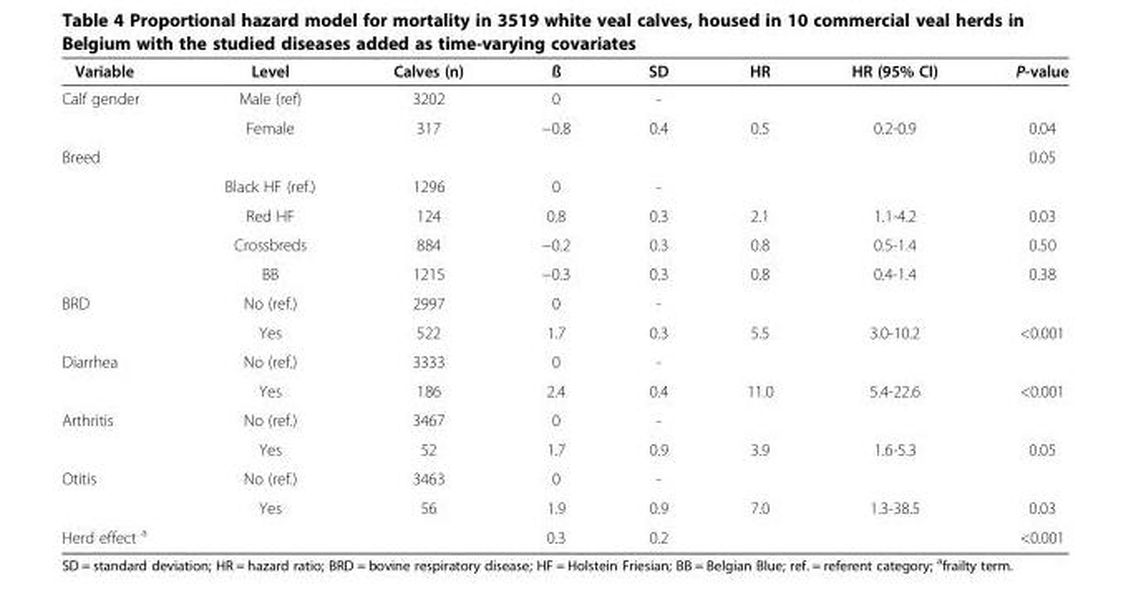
<table><thead><tr><td>Variable</td><td>Level</td><td>Calves (n)</td><td>ß</td><td>SD</td><td>HR</td><td>HR (95% CI)</td><td>P-value</td></tr></thead><tbody><tr><td rowspan="2">Calf gender</td><td>Male (ref)</td><td>3202</td><td>0</td><td>-</td><td></td><td></td><td></td></tr><tr><td>Female</td><td>317</td><td>−0.8</td><td>0.4</td><td>0.5</td><td>0.2-0.9</td><td>0.04</td></tr><tr><td rowspan="5">Breed</td><td></td><td></td><td></td><td></td><td></td><td></td><td>0.05</td></tr><tr><td>Black HF (ref.)</td><td>1296</td><td>0</td><td>-</td><td></td><td></td><td></td></tr><tr><td>Red HF</td><td>124</td><td>0.8</td><td>0.3</td><td>2.1</td><td>1.1-4.2</td><td>0.03</td></tr><tr><td>Crossbreds</td><td>884</td><td>−0.2</td><td>0.3</td><td>0.8</td><td>0.5-1.4</td><td>0.50</td></tr><tr><td>BB</td><td>1215</td><td>−0.3</td><td>0.3</td><td>0.8</td><td>0.4-1.4</td><td>0.38</td></tr><tr><td rowspan="2">BRD</td><td>No (ref.)</td><td>2997</td><td>0</td><td>-</td><td></td><td></td><td></td></tr><tr><td>Yes</td><td>522</td><td>1.7</td><td>0.3</td><td>5.5</td><td>3.0-10.2</td><td>&lt;0.001</td></tr><tr><td rowspan="2">Diarrhea</td><td>No (ref.)</td><td>3333</td><td>0</td><td>-</td><td></td><td></td><td></td></tr><tr><td>Yes</td><td>186</td><td>2.4</td><td>0.4</td><td>11.0</td><td>5.4-22.6</td><td>&lt;0.001</td></tr><tr><td rowspan="2">Arthritis</td><td>No (ref.)</td><td>3467</td><td>0</td><td>-</td><td></td><td></td><td></td></tr><tr><td>Yes</td><td>52</td><td>1.7</td><td>0.9</td><td>3.9</td><td>1.6-5.3</td><td>0.05</td></tr><tr><td rowspan="2">Otitis</td><td>No (ref.)</td><td>3463</td><td>0</td><td>-</td><td></td><td></td><td></td></tr><tr><td>Yes</td><td>56</td><td>1.9</td><td>0.9</td><td>7.0</td><td>1.3-38.5</td><td>0.03</td></tr><tr><td>Herd effect <sup>a</sup></td><td></td><td></td><td>0.3</td><td>0.2</td><td></td><td></td><td>&lt;0.001</td></tr></tbody></table>